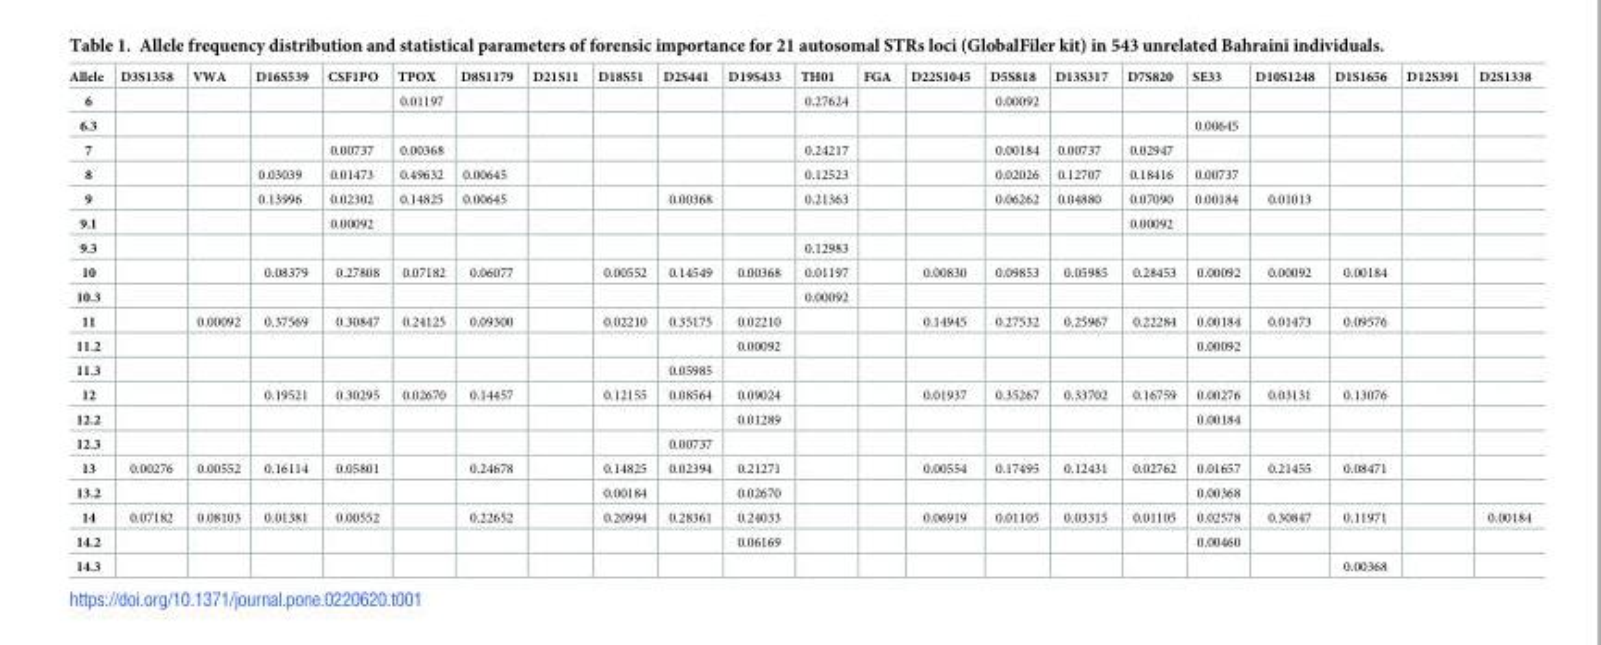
<table><thead><tr><td>Allele</td><td>D3S1358</td><td>VWA</td><td>D16S539</td><td>CSF1PO</td><td>TPOX</td><td>D8S1179</td><td>D21S11</td><td>D18S51</td><td>D2S441</td><td>D19S433</td><td>TH01</td><td>FGA</td><td>D22S1045</td><td>D5S818</td><td>D13S317</td><td>D7S820</td><td>SE33</td><td>D10S1248</td><td>D1S1656</td><td>D12S391</td><td>D2S1338</td></tr></thead><tbody><tr><td>6</td><td></td><td></td><td></td><td></td><td>0.01197</td><td></td><td></td><td></td><td></td><td></td><td>0.27624</td><td></td><td></td><td>0.00092</td><td></td><td></td><td></td><td></td><td></td><td></td><td></td></tr><tr><td>6.3</td><td></td><td></td><td></td><td></td><td></td><td></td><td></td><td></td><td></td><td></td><td></td><td></td><td></td><td></td><td></td><td></td><td>0.00645</td><td></td><td></td><td></td><td></td></tr><tr><td>7</td><td></td><td></td><td></td><td>0.00737</td><td>0.00368</td><td></td><td></td><td></td><td></td><td></td><td>0.24217</td><td></td><td></td><td>0.00184</td><td>0.00737</td><td>0.02947</td><td></td><td></td><td></td><td></td><td></td></tr><tr><td>8</td><td></td><td></td><td>0.03039</td><td>0.01473</td><td>0.49632</td><td>0.00645</td><td></td><td></td><td></td><td></td><td>0.12523</td><td></td><td></td><td>0.02026</td><td>0.12707</td><td>0.18416</td><td>0.00737</td><td></td><td></td><td></td><td></td></tr><tr><td>9</td><td></td><td></td><td>0.13996</td><td>0.02302</td><td>0.14825</td><td>0.00645</td><td></td><td></td><td>0.00368</td><td></td><td>0.21363</td><td></td><td></td><td>0.06262</td><td>0.04880</td><td>0.07090</td><td>0.00184</td><td>0.01013</td><td></td><td></td><td></td></tr><tr><td>9.1</td><td></td><td></td><td></td><td>0.00092</td><td></td><td></td><td></td><td></td><td></td><td></td><td></td><td></td><td></td><td></td><td></td><td>0.00092</td><td></td><td></td><td></td><td></td><td></td></tr><tr><td>9.3</td><td></td><td></td><td></td><td></td><td></td><td></td><td></td><td></td><td></td><td></td><td>0.12983</td><td></td><td></td><td></td><td></td><td></td><td></td><td></td><td></td><td></td><td></td></tr><tr><td>10</td><td></td><td></td><td>0.08379</td><td>0.27808</td><td>0.07182</td><td>0.06077</td><td></td><td>0.00552</td><td>0.14549</td><td>0.00368</td><td>0.01197</td><td></td><td>0.00830</td><td>0.09853</td><td>0.05985</td><td>0.28453</td><td>0.00092</td><td>0.00092</td><td>0.00184</td><td></td><td></td></tr><tr><td>10.3</td><td></td><td></td><td></td><td></td><td></td><td></td><td></td><td></td><td></td><td></td><td>0.00092</td><td></td><td></td><td></td><td></td><td></td><td></td><td></td><td></td><td></td><td></td></tr><tr><td>11</td><td></td><td>0.00092</td><td>0.37569</td><td>0.30847</td><td>0.24125</td><td>0.09300</td><td></td><td>0.02210</td><td>0.35175</td><td>0.02210</td><td></td><td></td><td>0.14945</td><td>0.27532</td><td>0.25967</td><td>0.22284</td><td>0.00184</td><td>0.01473</td><td>0.09576</td><td></td><td></td></tr><tr><td>11.2</td><td></td><td></td><td></td><td></td><td></td><td></td><td></td><td></td><td></td><td>0.00092</td><td></td><td></td><td></td><td></td><td></td><td></td><td>0.00092</td><td></td><td></td><td></td><td></td></tr><tr><td>11.3</td><td></td><td></td><td></td><td></td><td></td><td></td><td></td><td></td><td>0.05985</td><td></td><td></td><td></td><td></td><td></td><td></td><td></td><td></td><td></td><td></td><td></td><td></td></tr><tr><td>12</td><td></td><td></td><td>0.19521</td><td>0.30295</td><td>0.02670</td><td>0.14457</td><td></td><td>0.12155</td><td>0.08564</td><td>0.09024</td><td></td><td></td><td>0.01937</td><td>0.35267</td><td>0.33702</td><td>0.16759</td><td>0.00276</td><td>0.03131</td><td>0.13076</td><td></td><td></td></tr><tr><td>12.2</td><td></td><td></td><td></td><td></td><td></td><td></td><td></td><td></td><td></td><td>0.01289</td><td></td><td></td><td></td><td></td><td></td><td></td><td>0.00184</td><td></td><td></td><td></td><td></td></tr><tr><td>12.3</td><td></td><td></td><td></td><td></td><td></td><td></td><td></td><td></td><td>0.00737</td><td></td><td></td><td></td><td></td><td></td><td></td><td></td><td></td><td></td><td></td><td></td><td></td></tr><tr><td>13</td><td>0.00276</td><td>0.00552</td><td>0.16114</td><td>0.05801</td><td></td><td>0.24678</td><td></td><td>0.14825</td><td>0.02394</td><td>0.21271</td><td></td><td></td><td>0.00554</td><td>0.17495</td><td>0.12431</td><td>0.02762</td><td>0.01657</td><td>0.21455</td><td>0.08471</td><td></td><td></td></tr><tr><td>13.2</td><td></td><td></td><td></td><td></td><td></td><td></td><td></td><td>0.00184</td><td></td><td>0.02670</td><td></td><td></td><td></td><td></td><td></td><td></td><td>0.00368</td><td></td><td></td><td></td><td></td></tr><tr><td>14</td><td>0.07182</td><td>0.08103</td><td>0.01381</td><td>0.00552</td><td></td><td>0.22652</td><td></td><td>0.20994</td><td>0.28361</td><td>0.24033</td><td></td><td></td><td>0.06919</td><td>0.01105</td><td>0.03315</td><td>0.01105</td><td>0.02578</td><td>0.30847</td><td>0.11971</td><td></td><td>0.00184</td></tr><tr><td>14.2</td><td></td><td></td><td></td><td></td><td></td><td></td><td></td><td></td><td></td><td>0.06169</td><td></td><td></td><td></td><td></td><td></td><td></td><td>0.00460</td><td></td><td></td><td></td><td></td></tr><tr><td>14.3</td><td></td><td></td><td></td><td></td><td></td><td></td><td></td><td></td><td></td><td></td><td></td><td></td><td></td><td></td><td></td><td></td><td></td><td></td><td>0.00368</td><td></td><td></td></tr></tbody></table>